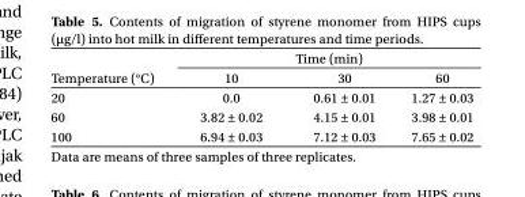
<table><thead><tr><td rowspan="2">Temperature (°C)</td><td colspan="3">Time (min)</td></tr><tr><td>10</td><td>30</td><td>60</td></tr></thead><tbody><tr><td>20</td><td>0.0</td><td>0.61 ± 0.01</td><td>1.27 ± 0.03</td></tr><tr><td>60</td><td>3.82 ± 0.02</td><td>4.15 ± 0.01</td><td>3.98 ± 0.01</td></tr><tr><td>100</td><td>6.94 ± 0.03</td><td>7.12 ± 0.03</td><td>7.65 ± 0.02</td></tr></tbody></table>